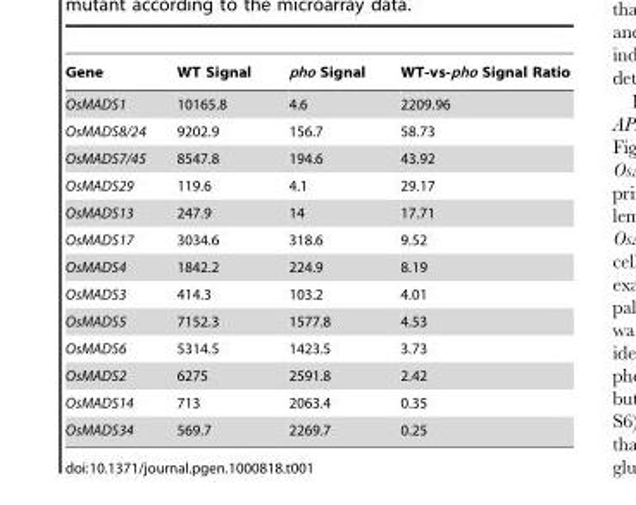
<table><thead><tr><td>Gene</td><td>WT Signal</td><td>pho Signal</td><td>WT-vs-pho Signal Ratio</td></tr></thead><tbody><tr><td>OsMADS1</td><td>10165.8</td><td>4.6</td><td>2209.96</td></tr><tr><td>OsMADS8/24</td><td>9202.9</td><td>156.7</td><td>58.73</td></tr><tr><td>OsMADS7/45</td><td>8547.8</td><td>194.6</td><td>43.92</td></tr><tr><td>OsMADS29</td><td>119.6</td><td>4.1</td><td>29.17</td></tr><tr><td>OsMADS13</td><td>247.9</td><td>14</td><td>17.71</td></tr><tr><td>OsMADS17</td><td>3034.6</td><td>318.6</td><td>9.52</td></tr><tr><td>OsMADS4</td><td>1842.2</td><td>224.9</td><td>8.19</td></tr><tr><td>OsMADS3</td><td>414.3</td><td>103.2</td><td>4.01</td></tr><tr><td>OsMADS5</td><td>7152.3</td><td>1577.8</td><td>4.53</td></tr><tr><td>OsMADS6</td><td>5314.5</td><td>1423.5</td><td>3.73</td></tr><tr><td>OsMADS2</td><td>6275</td><td>2591.8</td><td>2.42</td></tr><tr><td>OsMADS14</td><td>713</td><td>2063.4</td><td>0.35</td></tr><tr><td>OsMADS34</td><td>569.7</td><td>2269.7</td><td>0.25</td></tr></tbody></table>